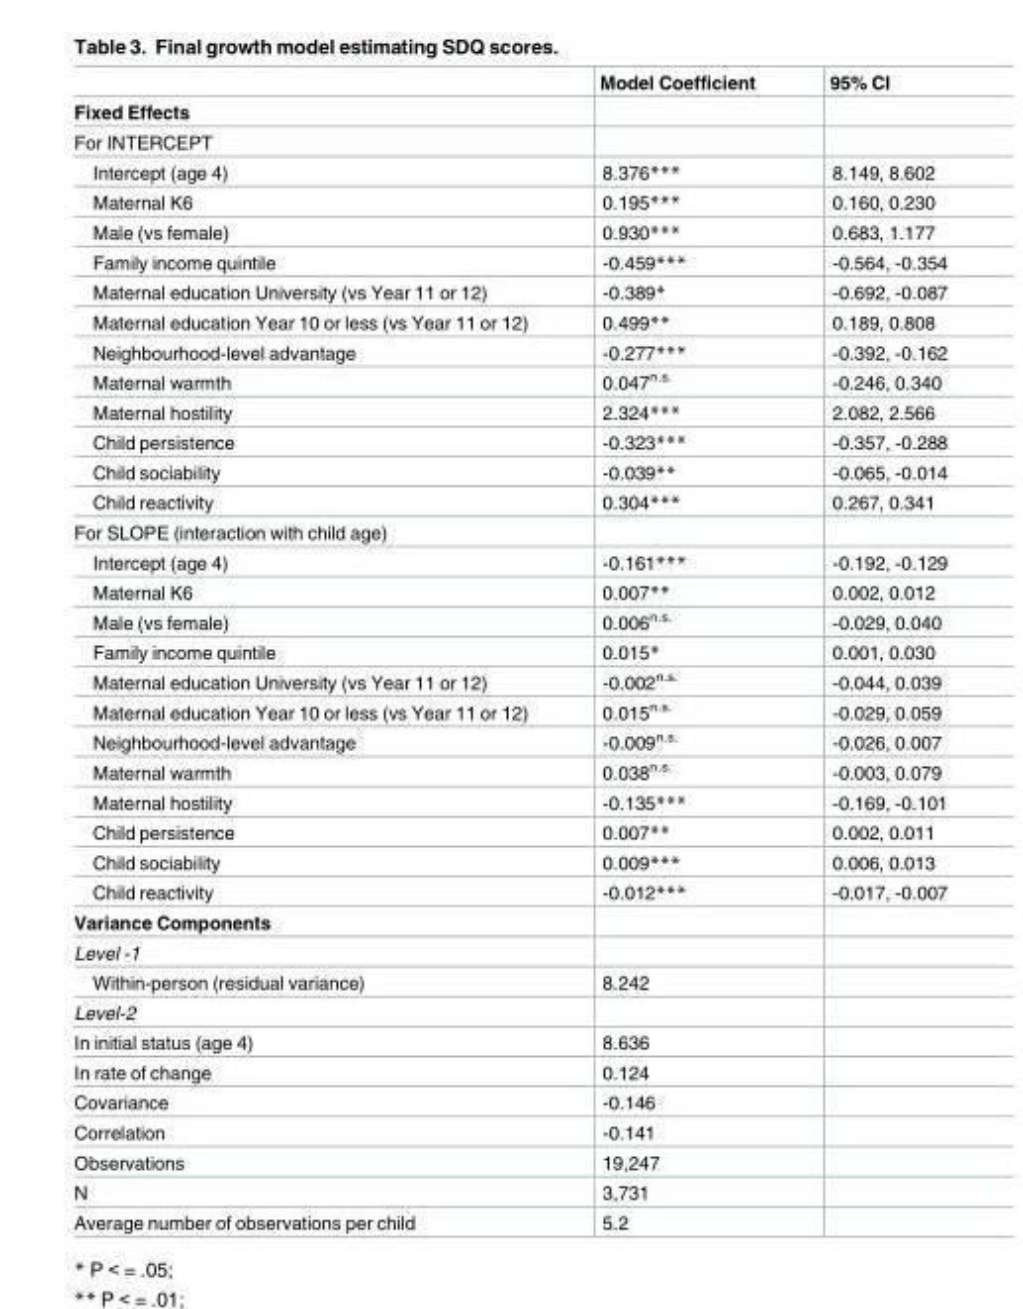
<table><thead><tr><td></td><td>Model Coefficient</td><td>95% CI</td></tr></thead><tbody><tr><td colspan="3">Fixed Effects</td></tr><tr><td colspan="3">For INTERCEPT</td></tr><tr><td>Intercept (age 4)</td><td>8.376***</td><td>8.149, 8.602</td></tr><tr><td>Maternal K6</td><td>0.195***</td><td>0.160, 0.230</td></tr><tr><td>Male (vs female)</td><td>0.930***</td><td>0.683, 1.177</td></tr><tr><td>Family income quintile</td><td>-0.459***</td><td>-0.564, -0.354</td></tr><tr><td>Maternal education University (vs Year 11 or 12)</td><td>-0.389*</td><td>-0.692, -0.087</td></tr><tr><td>Maternal education Year 10 or less (vs Year 11 or 12)</td><td>0.499**</td><td>0.189, 0.808</td></tr><tr><td>Neighbourhood-level advantage</td><td>-0.277***</td><td>-0.392, -0.162</td></tr><tr><td>Maternal warmth</td><td>0.047<sup>n.s.</sup></td><td>-0.246, 0.340</td></tr><tr><td>Maternal hostility</td><td>2.324***</td><td>2.082, 2.566</td></tr><tr><td>Child persistence</td><td>-0.323***</td><td>-0.357, -0.288</td></tr><tr><td>Child sociability</td><td>-0.039**</td><td>-0.065, -0.014</td></tr><tr><td>Child reactivity</td><td>0.304***</td><td>0.267, 0.341</td></tr><tr><td colspan="3">For SLOPE (interaction with child age)</td></tr><tr><td>Intercept (age 4)</td><td>-0.161***</td><td>-0.192, -0.129</td></tr><tr><td>Maternal K6</td><td>0.007**</td><td>0.002, 0.012</td></tr><tr><td>Male (vs female)</td><td>0.006<sup>n.s.</sup></td><td>-0.029, 0.040</td></tr><tr><td>Family income quintile</td><td>0.015*</td><td>0.001, 0.030</td></tr><tr><td>Maternal education University (vs Year 11 or 12)</td><td>-0.002<sup>n.s.</sup></td><td>-0.044, 0.039</td></tr><tr><td>Maternal education Year 10 or less (vs Year 11 or 12)</td><td>0.015<sup>n.s.</sup></td><td>-0.029, 0.059</td></tr><tr><td>Neighbourhood-level advantage</td><td>-0.009<sup>n.s.</sup></td><td>-0.026, 0.007</td></tr><tr><td>Maternal warmth</td><td>0.038<sup>n.s.</sup></td><td>-0.003, 0.079</td></tr><tr><td>Maternal hostility</td><td>-0.135***</td><td>-0.169, -0.101</td></tr><tr><td>Child persistence</td><td>0.007**</td><td>0.002, 0.011</td></tr><tr><td>Child sociability</td><td>0.009***</td><td>0.006, 0.013</td></tr><tr><td>Child reactivity</td><td>-0.012***</td><td>-0.017, -0.007</td></tr><tr><td colspan="3">Variance Components</td></tr><tr><td colspan="3">Level -1</td></tr><tr><td>Within-person (residual variance)</td><td>8.242</td><td></td></tr><tr><td colspan="3">Level-2</td></tr><tr><td>In initial status (age 4)</td><td>8.636</td><td></td></tr><tr><td>In rate of change</td><td>0.124</td><td></td></tr><tr><td>Covariance</td><td>-0.146</td><td></td></tr><tr><td>Correlation</td><td>-0.141</td><td></td></tr><tr><td>Observations</td><td>19,247</td><td></td></tr><tr><td>N</td><td>3,731</td><td></td></tr><tr><td>Average number of observations per child</td><td>5.2</td><td></td></tr></tbody></table>